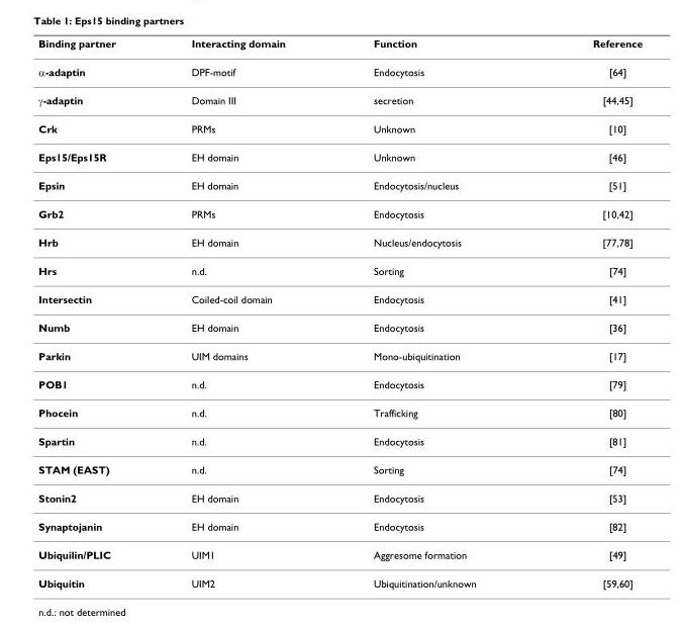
<table><thead><tr><td>Binding partner</td><td>Interacting domain</td><td>Function</td><td>Reference</td></tr></thead><tbody><tr><td>α-adaptin</td><td>DPF-motif</td><td>Endocytosis</td><td>[64]</td></tr><tr><td>γ-adaptin</td><td>Domain III</td><td>secretion</td><td>[44,45]</td></tr><tr><td>Crk</td><td>PRMs</td><td>Unknown</td><td>[10]</td></tr><tr><td>Eps15/Eps15R</td><td>EH domain</td><td>Unknown</td><td>[46]</td></tr><tr><td>Epsin</td><td>EH domain</td><td>Endocytosis/nucleus</td><td>[51]</td></tr><tr><td>Grb2</td><td>PRMs</td><td>Endocytosis</td><td>[10,42]</td></tr><tr><td>Hrb</td><td>EH domain</td><td>Nucleus/endocytosis</td><td>[77,78]</td></tr><tr><td>Hrs</td><td>n.d.</td><td>Sorting</td><td>[74]</td></tr><tr><td>Intersectin</td><td>Coiled-coil domain</td><td>Endocytosis</td><td>[41]</td></tr><tr><td>Numb</td><td>EH domain</td><td>Endocytosis</td><td>[36]</td></tr><tr><td>Parkin</td><td>UIM domains</td><td>Mono-ubiquitination</td><td>[17]</td></tr><tr><td>POB1</td><td>n.d.</td><td>Endocytosis</td><td>[79]</td></tr><tr><td>Phocein</td><td>n.d.</td><td>Trafficking</td><td>[80]</td></tr><tr><td>Spartin</td><td>n.d.</td><td>Endocytosis</td><td>[81]</td></tr><tr><td>STAM (EAST)</td><td>n.d.</td><td>Sorting</td><td>[74]</td></tr><tr><td>Stonin2</td><td>EH domain</td><td>Endocytosis</td><td>[53]</td></tr><tr><td>Synaptojanin</td><td>EH domain</td><td>Endocytosis</td><td>[82]</td></tr><tr><td>Ubiquilin/PLIC</td><td>UIM1</td><td>Aggresome formation</td><td>[49]</td></tr><tr><td>Ubiquitin</td><td>UIM2</td><td>Ubiquitination/unknown</td><td>[59,60]</td></tr></tbody></table>